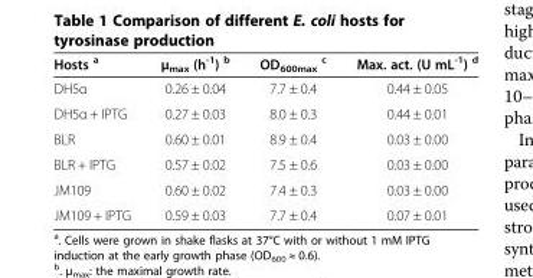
<table><thead><tr><td>Hosts <sup>a</sup></td><td>μ<sub>max</sub> (h<sup>-1</sup>) <sup>b</sup></td><td>OD<sub>600max</sub> <sup>c</sup></td><td>Max. act. (U mL<sup>-1</sup>) <sup>d</sup></td></tr></thead><tbody><tr><td>DH5α</td><td>0.26 ± 0.04</td><td>7.7 ± 0.4</td><td>0.44 ± 0.05</td></tr><tr><td>DH5α + IPTG</td><td>0.27 ± 0.03</td><td>8.0 ± 0.3</td><td>0.44 ± 0.01</td></tr><tr><td>BLR</td><td>0.60 ± 0.01</td><td>8.9 ± 0.4</td><td>0.03 ± 0.00</td></tr><tr><td>BLR + IPTG</td><td>0.57 ± 0.02</td><td>7.5 ± 0.6</td><td>0.03 ± 0.00</td></tr><tr><td>JM109</td><td>0.60 ± 0.02</td><td>7.4 ± 0.3</td><td>0.03 ± 0.00</td></tr><tr><td>JM109 + IPTG</td><td>0.59 ± 0.03</td><td>7.7 ± 0.4</td><td>0.07 ± 0.01</td></tr></tbody></table>